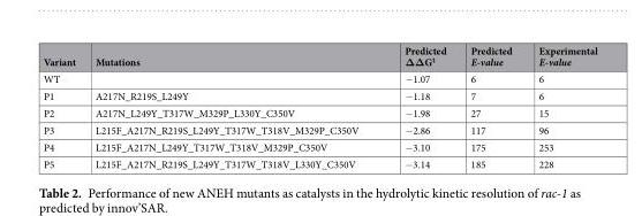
<table><thead><tr><td>Variant</td><td>Mutations</td><td>Predicted ΔΔG<sup>‡</sup></td><td>Predicted E-value</td><td>Experimental E-value</td></tr></thead><tbody><tr><td>WT</td><td></td><td>−1.07</td><td>6</td><td>6</td></tr><tr><td>P1</td><td>A217N_R219S_L249Y</td><td>−1.18</td><td>7</td><td>6</td></tr><tr><td>P2</td><td>A217N_L249Y_T317W_M329P_L330Y_C350V</td><td>−1.98</td><td>27</td><td>15</td></tr><tr><td>P3</td><td>L215F_A217N_R219S_L249Y_T317W_T318V_M329P_C350V</td><td>−2.86</td><td>117</td><td>96</td></tr><tr><td>P4</td><td>L215F_A217N_L249Y_T317W_T318V_M329P_C350V</td><td>−3.10</td><td>175</td><td>253</td></tr><tr><td>P5</td><td>L215F_A217N_R219S_L249Y_T317W_T318V_L330Y_C350V</td><td>−3.14</td><td>185</td><td>228</td></tr></tbody></table>